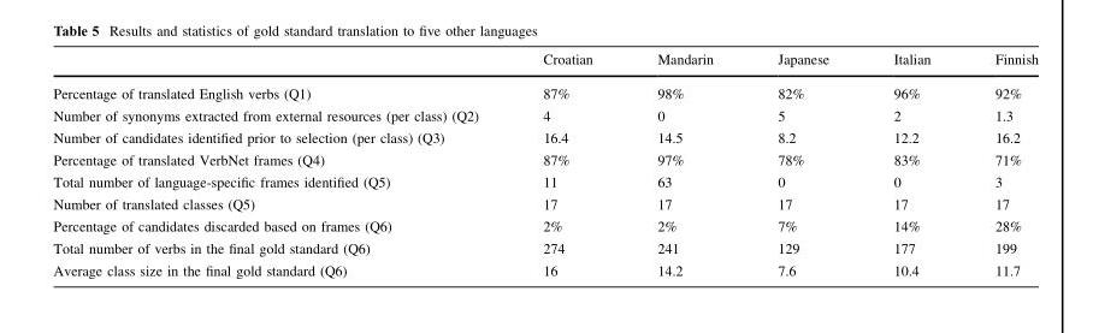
<table><thead><tr><td></td><td>Croatian</td><td>Mandarin</td><td>Japanese</td><td>Italian</td><td>Finnish</td></tr></thead><tbody><tr><td>Percentage of translated English verbs (Q1)</td><td>87%</td><td>98%</td><td>82%</td><td>96%</td><td>92%</td></tr><tr><td>Number of synonyms extracted from external resources (per class) (Q2)</td><td>4</td><td>0</td><td>5</td><td>2</td><td>1.3</td></tr><tr><td>Number of candidates identified prior to selection (per class) (Q3)</td><td>16.4</td><td>14.5</td><td>8.2</td><td>12.2</td><td>16.2</td></tr><tr><td>Percentage of translated VerbNet frames (Q4)</td><td>87%</td><td>97%</td><td>78%</td><td>83%</td><td>71%</td></tr><tr><td>Total number of language-specific frames identified (Q5)</td><td>11</td><td>63</td><td>0</td><td>0</td><td>3</td></tr><tr><td>Number of translated classes (Q5)</td><td>17</td><td>17</td><td>17</td><td>17</td><td>17</td></tr><tr><td>Percentage of candidates discarded based on frames (Q6)</td><td>2%</td><td>2%</td><td>7%</td><td>14%</td><td>28%</td></tr><tr><td>Total number of verbs in the final gold standard (Q6)</td><td>274</td><td>241</td><td>129</td><td>177</td><td>199</td></tr><tr><td>Average class size in the final gold standard (Q6)</td><td>16</td><td>14.2</td><td>7.6</td><td>10.4</td><td>11.7</td></tr></tbody></table>